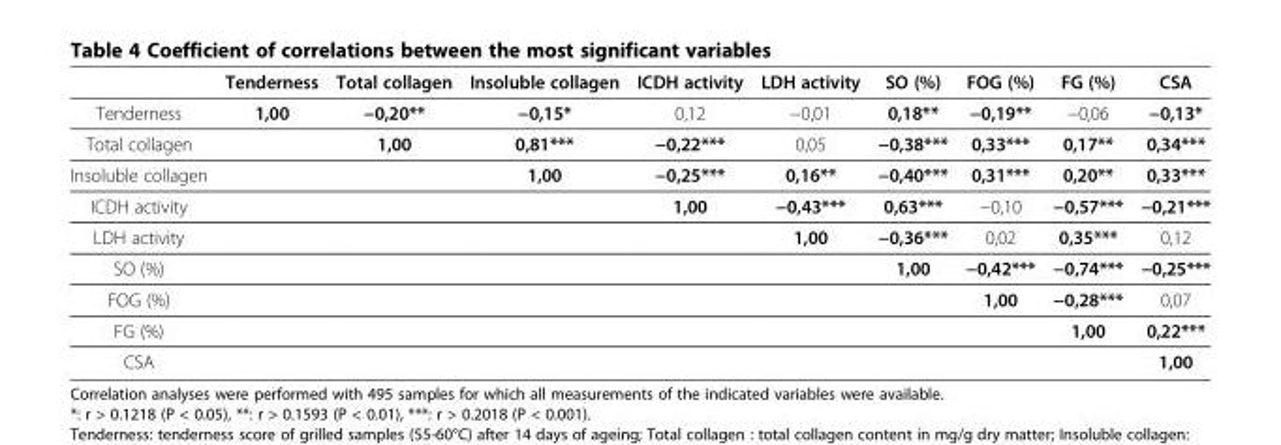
<table><thead><tr><td></td><td>Tenderness</td><td>Total collagen</td><td>Insoluble collagen</td><td>ICDH activity</td><td>LDH activity</td><td>SO (%)</td><td>FOG (%)</td><td>FG (%)</td><td>CSA</td></tr></thead><tbody><tr><td>Tenderness</td><td>1,00</td><td>−0,20**</td><td>−0,15*</td><td>0,12</td><td>−0,01</td><td>0,18**</td><td>−0,19**</td><td>−0,06</td><td>−0,13*</td></tr><tr><td>Total collagen</td><td></td><td>1,00</td><td>0,81***</td><td>−0,22***</td><td>0,05</td><td>−0,38***</td><td>0,33***</td><td>0,17**</td><td>0,34***</td></tr><tr><td>Insoluble collagen</td><td></td><td></td><td>1,00</td><td>−0,25***</td><td>0,16**</td><td>−0,40***</td><td>0,31***</td><td>0,20**</td><td>0,33***</td></tr><tr><td>ICDH activity</td><td></td><td></td><td></td><td>1,00</td><td>−0,43***</td><td>0,63***</td><td>−0,10</td><td>−0,57***</td><td>−0,21***</td></tr><tr><td>LDH activity</td><td></td><td></td><td></td><td></td><td>1,00</td><td>−0,36***</td><td>0,02</td><td>0,35***</td><td>0,12</td></tr><tr><td>SO (%)</td><td></td><td></td><td></td><td></td><td></td><td>1,00</td><td>−0,42***</td><td>−0,74***</td><td>−0,25***</td></tr><tr><td>FOG (%)</td><td></td><td></td><td></td><td></td><td></td><td></td><td>1,00</td><td>−0,28***</td><td>0,07</td></tr><tr><td>FG (%)</td><td></td><td></td><td></td><td></td><td></td><td></td><td></td><td>1,00</td><td>0,22***</td></tr><tr><td>CSA</td><td></td><td></td><td></td><td></td><td></td><td></td><td></td><td></td><td>1,00</td></tr></tbody></table>